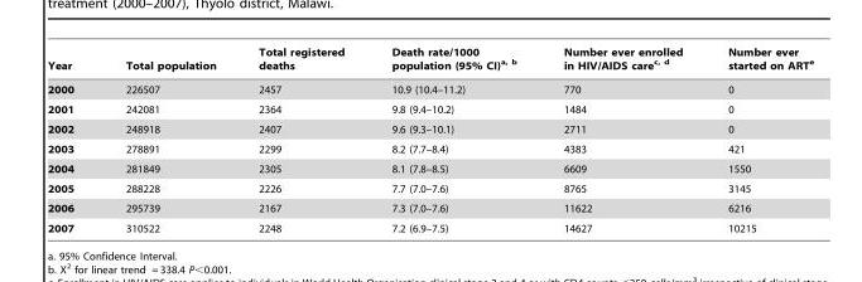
<table><thead><tr><td>Year</td><td>Total population</td><td>Total registered deaths</td><td>Death rate/1000 population (95% CI)<sup>a,</sup> b</td><td>Number ever enrolled in HIV/AIDS care<sup>c,</sup> d</td><td>Number ever started on ART<sup>e</sup></td></tr></thead><tbody><tr><td>2000</td><td>226507</td><td>2457</td><td>10.9 (10.4–11.2)</td><td>770</td><td>0</td></tr><tr><td>2001</td><td>242081</td><td>2364</td><td>9.8 (9.4–10.2)</td><td>1484</td><td>0</td></tr><tr><td>2002</td><td>248918</td><td>2407</td><td>9.6 (9.3–10.1)</td><td>2711</td><td>0</td></tr><tr><td>2003</td><td>278891</td><td>2299</td><td>8.2 (7.7–8.4)</td><td>4383</td><td>421</td></tr><tr><td>2004</td><td>281849</td><td>2305</td><td>8.1 (7.8–8.5)</td><td>6609</td><td>1550</td></tr><tr><td>2005</td><td>288228</td><td>2226</td><td>7.7 (7.0–7.6)</td><td>8765</td><td>3145</td></tr><tr><td>2006</td><td>295739</td><td>2167</td><td>7.3 (7.0–7.6)</td><td>11622</td><td>6216</td></tr><tr><td>2007</td><td>310522</td><td>2248</td><td>7.2 (6.9–7.5)</td><td>14627</td><td>10215</td></tr></tbody></table>